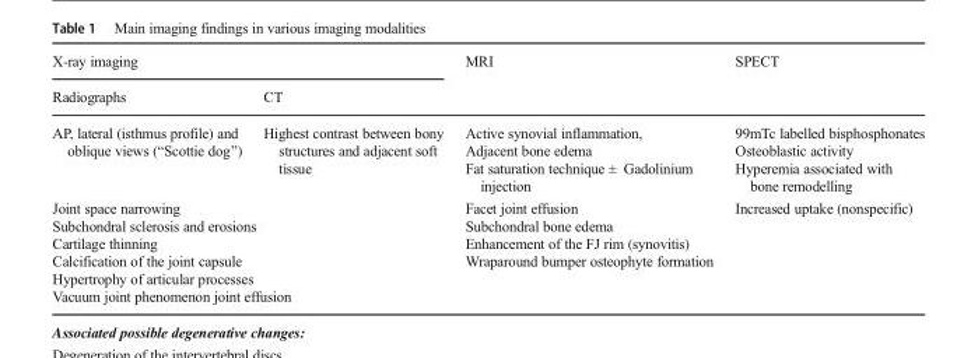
<table><thead><tr><td colspan="2">X-ray imaging</td><td rowspan="2">MRI</td><td rowspan="2">SPECT</td></tr><tr><td>Radiographs</td><td>CT</td></tr></thead><tbody><tr><td>AP, lateral (isthmus profile) and oblique views (“Scottie dog”)</td><td>Highest contrast between bony structures and adjacent soft tissue</td><td>Active synovial inflammation, Adjacent bone edema Fat saturation technique ± Gadolinium injection</td><td>99mTc labelled bisphosphonates Osteoblastic activity Hyperemia associated with bone remodelling</td></tr><tr><td colspan="2">Joint space narrowing Subchondral sclerosis and erosions Cartilage thinning Calcification of the joint capsule Hypertrophy of articular processes Vacuum joint phenomenon joint effusion</td><td>Facet joint effusion Subchondral bone edema Enhancement of the FJ rim (synovitis) Wraparound bumper osteophyte formation</td><td>Increased uptake (nonspecific)</td></tr></tbody></table>